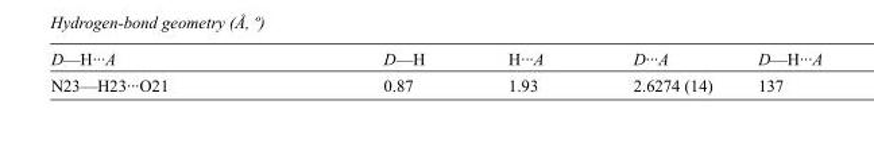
<table><tbody><tr><td>D—H···A</td><td>D—H</td><td>H···A</td><td>D···A</td><td>D—H···A</td></tr><tr><td>N23—H23···O21</td><td>0.87</td><td>1.93</td><td>2.6274 (14)</td><td>137</td></tr></tbody></table>